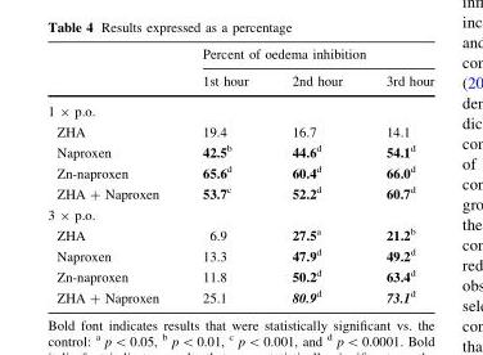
<table><thead><tr><td rowspan="2"></td><td colspan="3">Percent of oedema inhibition</td></tr><tr><td>1st hour</td><td>2nd hour</td><td>3rd hour</td></tr></thead><tbody><tr><td colspan="4">1 × p.o.</td></tr><tr><td>ZHA</td><td>19.4</td><td>16.7</td><td>14.1</td></tr><tr><td>Naproxen</td><td>42.5<sup>b</sup></td><td>44.6<sup>d</sup></td><td>54.1<sup>d</sup></td></tr><tr><td>Zn-naproxen</td><td>65.6<sup>d</sup></td><td>60.4<sup>d</sup></td><td>66.0<sup>d</sup></td></tr><tr><td>ZHA + Naproxen</td><td>53.7<sup>c</sup></td><td>52.2<sup>d</sup></td><td>60.7<sup>d</sup></td></tr><tr><td colspan="4">3 × p.o.</td></tr><tr><td>ZHA</td><td>6.9</td><td>27.5<sup>a</sup></td><td>21.2<sup>b</sup></td></tr><tr><td>Naproxen</td><td>13.3</td><td>47.9<sup>d</sup></td><td>49.2<sup>d</sup></td></tr><tr><td>Zn-naproxen</td><td>11.8</td><td>50.2<sup>d</sup></td><td>63.4<sup>d</sup></td></tr><tr><td>ZHA + Naproxen</td><td>25.1</td><td>80.9<sup>d</sup></td><td>73.1<sup>d</sup></td></tr></tbody></table>